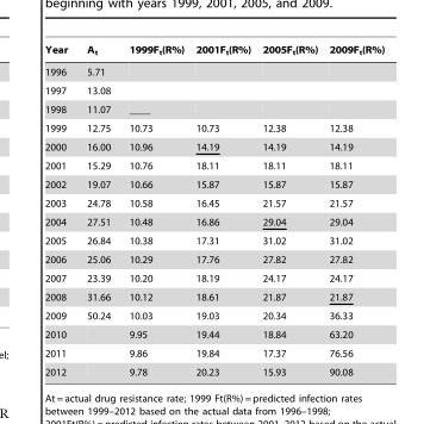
<table><thead><tr><td>Year</td><td>A<sub>t</sub></td><td>1999F<sub>t</sub>(R%)</td><td>2001F<sub>t</sub>(R%)</td><td>2005F<sub>t</sub>(R%)</td><td>2009F<sub>t</sub>(R%)</td></tr></thead><tbody><tr><td>1996</td><td>5.71</td><td></td><td></td><td></td><td></td></tr><tr><td>1997</td><td>13.08</td><td></td><td></td><td></td><td></td></tr><tr><td>1998</td><td>11.07</td><td>____</td><td></td><td></td><td></td></tr><tr><td>1999</td><td>12.75</td><td>10.73</td><td>10.73</td><td>12.38</td><td>12.38</td></tr><tr><td>2000</td><td>16.00</td><td>10.96</td><td>14.19</td><td>14.19</td><td>14.19</td></tr><tr><td>2001</td><td>15.29</td><td>10.76</td><td>18.11</td><td>18.11</td><td>18.11</td></tr><tr><td>2002</td><td>19.07</td><td>10.66</td><td>15.87</td><td>15.87</td><td>15.87</td></tr><tr><td>2003</td><td>24.78</td><td>10.58</td><td>16.45</td><td>21.57</td><td>21.57</td></tr><tr><td>2004</td><td>27.51</td><td>10.48</td><td>16.86</td><td>29.04</td><td>29.04</td></tr><tr><td>2005</td><td>26.84</td><td>10.38</td><td>17.31</td><td>31.02</td><td>31.02</td></tr><tr><td>2006</td><td>25.06</td><td>10.29</td><td>17.76</td><td>27.82</td><td>27.82</td></tr><tr><td>2007</td><td>23.39</td><td>10.20</td><td>18.19</td><td>24.17</td><td>24.17</td></tr><tr><td>2008</td><td>31.66</td><td>10.12</td><td>18.61</td><td>21.87</td><td>21.87</td></tr><tr><td>2009</td><td>50.24</td><td>10.03</td><td>19.03</td><td>20.34</td><td>36.33</td></tr><tr><td>2010</td><td></td><td>9.95</td><td>19.44</td><td>18.84</td><td>63.20</td></tr><tr><td>2011</td><td></td><td>9.86</td><td>19.84</td><td>17.37</td><td>76.56</td></tr><tr><td>2012</td><td></td><td>9.78</td><td>20.23</td><td>15.93</td><td>90.08</td></tr></tbody></table>